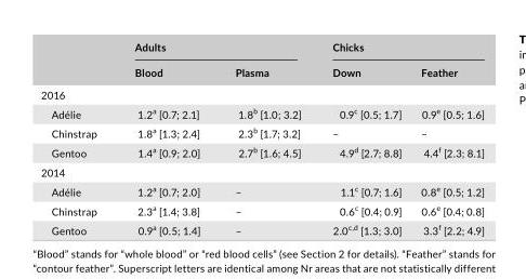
<table><thead><tr><td rowspan="2"></td><td colspan="2">Adults</td><td colspan="2">Chicks</td></tr><tr><td>Blood</td><td>Plasma</td><td>Down</td><td>Feather</td></tr></thead><tbody><tr><td colspan="5">2016</td></tr><tr><td>Adélie</td><td>1.2<sup>a</sup> [0.7; 2.1]</td><td>1.8<sup>b</sup> [1.0; 3.2]</td><td>0.9<sup>c</sup> [0.5; 1.7]</td><td>0.9<sup>e</sup> [0.5; 1.6]</td></tr><tr><td>Chinstrap</td><td>1.8<sup>a</sup> [1.3; 2.4]</td><td>2.3<sup>b</sup> [1.7; 3.2]</td><td>–</td><td>–</td></tr><tr><td>Gentoo</td><td>1.4<sup>a</sup> [0.9; 2.0]</td><td>2.7<sup>b</sup> [1.6; 4.5]</td><td>4.9<sup>d</sup> [2.7; 8.8]</td><td>4.4<sup>f</sup> [2.3; 8.1]</td></tr><tr><td colspan="5">2014</td></tr><tr><td>Adélie</td><td>1.2<sup>a</sup> [0.7; 2.0]</td><td>–</td><td>1.1<sup>c</sup> [0.7; 1.6]</td><td>0.8<sup>e</sup> [0.5; 1.2]</td></tr><tr><td>Chinstrap</td><td>2.3<sup>a</sup> [1.4; 3.8]</td><td>–</td><td>0.6<sup>c</sup> [0.4; 0.9]</td><td>0.6<sup>e</sup> [0.4; 0.8]</td></tr><tr><td>Gentoo</td><td>0.9<sup>a</sup> [0.5; 1.4]</td><td>–</td><td>2.0<sup>c,d</sup> [1.3; 3.0]</td><td>3.3<sup>f</sup> [2.2; 4.9]</td></tr></tbody></table>